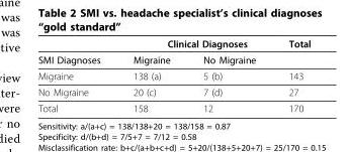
<table><thead><tr><td rowspan="2">SMI Diagnoses</td><td colspan="2">Clinical Diagnoses</td><td rowspan="2">Total</td></tr><tr><td>Migraine</td><td>No Migraine</td></tr></thead><tbody><tr><td>Migraine</td><td>138 (a)</td><td>5 (b)</td><td>143</td></tr><tr><td>No Migraine</td><td>20 (c)</td><td>7 (d)</td><td>27</td></tr><tr><td>Total</td><td>158</td><td>12</td><td>170</td></tr></tbody></table>